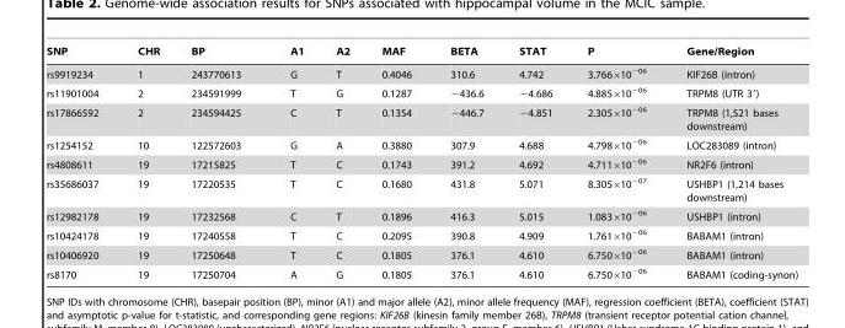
<table><thead><tr><td>SNP</td><td>CHR</td><td>BP</td><td>A1</td><td>A2</td><td>MAF</td><td>BETA</td><td>STAT</td><td>P</td><td>Gene/Region</td></tr></thead><tbody><tr><td>rs9919234</td><td>1</td><td>243770613</td><td>G</td><td>T</td><td>0.4046</td><td>310.6</td><td>4.742</td><td>3.766×10<sup>−06</sup></td><td>KIF26B (intron)</td></tr><tr><td>rs11901004</td><td>2</td><td>234591999</td><td>T</td><td>G</td><td>0.1287</td><td>−436.6</td><td>−4.686</td><td>4.885×10<sup>−06</sup></td><td>TRPM8 (UTR 3′)</td></tr><tr><td>rs17866592</td><td>2</td><td>234594425</td><td>C</td><td>T</td><td>0.1354</td><td>−446.7</td><td>−4.851</td><td>2.305×10<sup>−06</sup></td><td>TRPM8 (1,521 bases downstream)</td></tr><tr><td>rs1254152</td><td>10</td><td>122572603</td><td>G</td><td>A</td><td>0.3880</td><td>307.9</td><td>4.688</td><td>4.798×10<sup>−06</sup></td><td>LOC283089 (intron)</td></tr><tr><td>rs4808611</td><td>19</td><td>17215825</td><td>T</td><td>C</td><td>0.1743</td><td>391.2</td><td>4.692</td><td>4.711×10<sup>−06</sup></td><td>NR2F6 (intron)</td></tr><tr><td>rs35686037</td><td>19</td><td>17220535</td><td>T</td><td>C</td><td>0.1680</td><td>431.8</td><td>5.071</td><td>8.305×10<sup>−07</sup></td><td>USHBP1 (1,214 bases downstream)</td></tr><tr><td>rs12982178</td><td>19</td><td>17232568</td><td>C</td><td>T</td><td>0.1896</td><td>416.3</td><td>5.015</td><td>1.083×10<sup>−06</sup></td><td>USHBP1 (intron)</td></tr><tr><td>rs10424178</td><td>19</td><td>17240558</td><td>T</td><td>C</td><td>0.2095</td><td>390.8</td><td>4.909</td><td>1.761×10<sup>−06</sup></td><td>BABAM1 (intron)</td></tr><tr><td>rs10406920</td><td>19</td><td>17250648</td><td>T</td><td>C</td><td>0.1805</td><td>376.1</td><td>4.610</td><td>6.750×10<sup>−06</sup></td><td>BABAM1 (intron)</td></tr><tr><td>rs8170</td><td>19</td><td>17250704</td><td>A</td><td>G</td><td>0.1805</td><td>376.1</td><td>4.610</td><td>6.750×10<sup>−06</sup></td><td>BABAM1 (coding-synon)</td></tr></tbody></table>